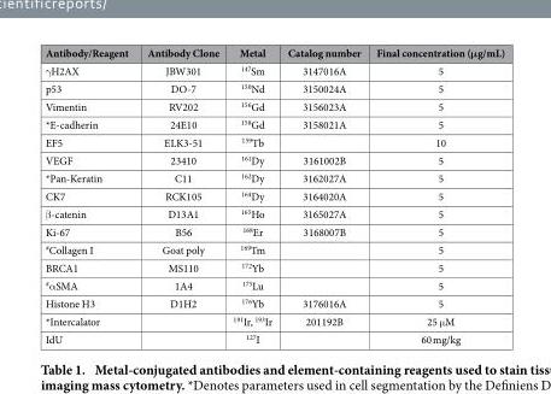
<table><thead><tr><td>Antibody/Reagent</td><td>Antibody Clone</td><td>Metal</td><td>Catalog number</td><td>Final concentration (μg/mL)</td></tr></thead><tbody><tr><td>γ H2AX</td><td>JBW301</td><td><sup>147</sup>Sm</td><td>3147016A</td><td>5</td></tr><tr><td>p53</td><td>DO-7</td><td><sup>150</sup>Nd</td><td>3150024A</td><td>5</td></tr><tr><td>Vimentin</td><td>RV202</td><td><sup>156</sup>Gd</td><td>3156023A</td><td>5</td></tr><tr><td>*E-cadherin</td><td>24E10</td><td><sup>158</sup>Gd</td><td>3158021A</td><td>5</td></tr><tr><td>EF5</td><td>ELK3-51</td><td><sup>159</sup>Tb</td><td></td><td>10</td></tr><tr><td>VEGF</td><td>23410</td><td><sup>161</sup>Dy</td><td>3161002B</td><td>5</td></tr><tr><td>*Pan-Keratin</td><td>C11</td><td><sup>162</sup>Dy</td><td>3162027A</td><td>5</td></tr><tr><td>CK7</td><td>RCK105</td><td><sup>164</sup>Dy</td><td>3164020A</td><td>5</td></tr><tr><td>β -catenin</td><td>D13A1</td><td><sup>165</sup>Ho</td><td>3165027A</td><td>5</td></tr><tr><td>Ki-67</td><td>B56</td><td><sup>168</sup>Er</td><td>3168007B</td><td>5</td></tr><tr><td>#Collagen I</td><td>Goat poly</td><td><sup>169</sup>Tm</td><td></td><td>5</td></tr><tr><td>BRCA1</td><td>MS110</td><td><sup>172</sup>Yb</td><td></td><td>5</td></tr><tr><td>#α SMA</td><td>1A4</td><td><sup>175</sup>Lu</td><td></td><td>5</td></tr><tr><td>Histone H3</td><td>D1H2</td><td><sup>176</sup>Yb</td><td>3176016A</td><td>5</td></tr><tr><td>*Intercalator</td><td></td><td><sup>191</sup>Ir, <sup>193</sup>Ir</td><td>201192B</td><td>25 μM</td></tr><tr><td>IdU</td><td></td><td><sup>127</sup>I</td><td></td><td>60 mg/kg</td></tr></tbody></table>